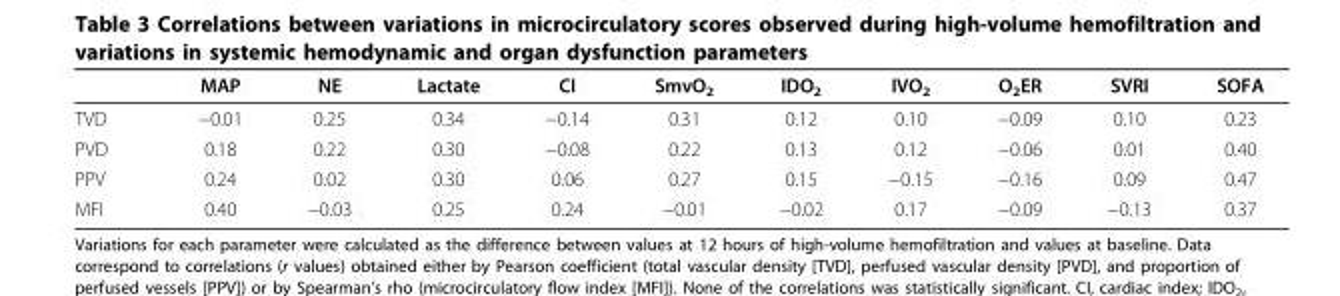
<table><thead><tr><td></td><td>MAP</td><td>NE</td><td>Lactate</td><td>CI</td><td>SmvO<sub>2</sub></td><td>IDO<sub>2</sub></td><td>IVO<sub>2</sub></td><td>O<sub>2</sub>ER</td><td>SVRI</td><td>SOFA</td></tr></thead><tbody><tr><td>TVD</td><td>−0.01</td><td>0.25</td><td>0.34</td><td>−0.14</td><td>0.31</td><td>0.12</td><td>0.10</td><td>−0.09</td><td>0.10</td><td>0.23</td></tr><tr><td>PVD</td><td>0.18</td><td>0.22</td><td>0.30</td><td>−0.08</td><td>0.22</td><td>0.13</td><td>0.12</td><td>−0.06</td><td>0.01</td><td>0.40</td></tr><tr><td>PPV</td><td>0.24</td><td>0.02</td><td>0.30</td><td>0.06</td><td>0.27</td><td>0.15</td><td>−0.15</td><td>−0.16</td><td>0.09</td><td>0.47</td></tr><tr><td>MFI</td><td>0.40</td><td>−0.03</td><td>0.25</td><td>0.24</td><td>−0.01</td><td>−0.02</td><td>0.17</td><td>−0.09</td><td>−0.13</td><td>0.37</td></tr></tbody></table>